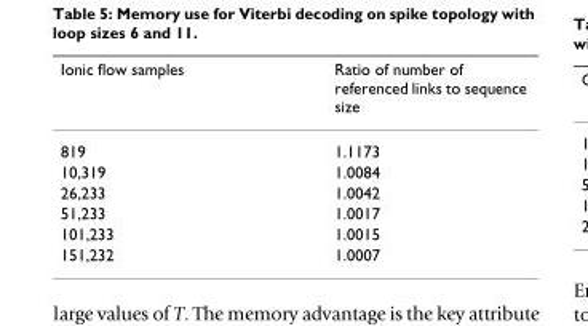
<table><thead><tr><td>Ionic flow samples</td><td>Ratio of number of referenced links to sequence size</td></tr></thead><tbody><tr><td>819</td><td>1.1173</td></tr><tr><td>10,319</td><td>1.0084</td></tr><tr><td>26,233</td><td>1.0042</td></tr><tr><td>51,233</td><td>1.0017</td></tr><tr><td>101,233</td><td>1.0015</td></tr><tr><td>151,232</td><td>1.0007</td></tr></tbody></table>